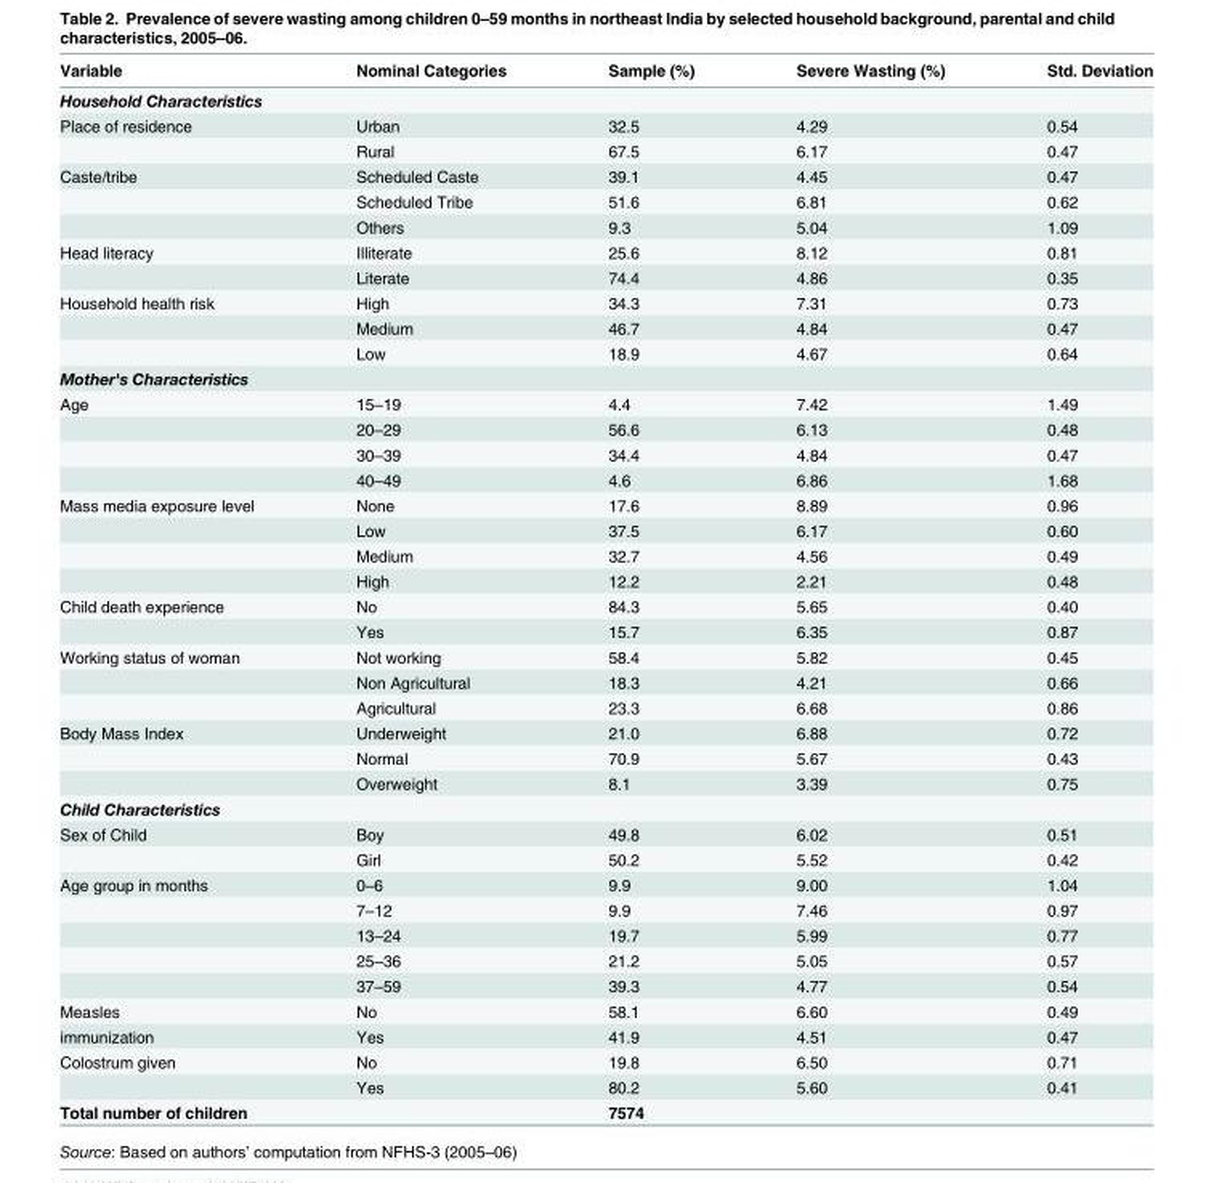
<table><thead><tr><td>Variable</td><td>Nominal Categories</td><td>Sample (%)</td><td>Severe Wasting (%)</td><td>Std. Deviation</td></tr></thead><tbody><tr><td colspan="5">Household Characteristics</td></tr><tr><td rowspan="2">Place of residence</td><td>Urban</td><td>32.5</td><td>4.29</td><td>0.54</td></tr><tr><td>Rural</td><td>67.5</td><td>6.17</td><td>0.47</td></tr><tr><td rowspan="3">Caste/tribe</td><td>Scheduled Caste</td><td>39.1</td><td>4.45</td><td>0.47</td></tr><tr><td>Scheduled Tribe</td><td>51.6</td><td>6.81</td><td>0.62</td></tr><tr><td>Others</td><td>9.3</td><td>5.04</td><td>1.09</td></tr><tr><td rowspan="2">Head literacy</td><td>Illiterate</td><td>25.6</td><td>8.12</td><td>0.81</td></tr><tr><td>Literate</td><td>74.4</td><td>4.86</td><td>0.35</td></tr><tr><td rowspan="3">Household health risk</td><td>High</td><td>34.3</td><td>7.31</td><td>0.73</td></tr><tr><td>Medium</td><td>46.7</td><td>4.84</td><td>0.47</td></tr><tr><td>Low</td><td>18.9</td><td>4.67</td><td>0.64</td></tr><tr><td colspan="5">Mother&#x27;s Characteristics</td></tr><tr><td rowspan="4">Age</td><td>15–19</td><td>4.4</td><td>7.42</td><td>1.49</td></tr><tr><td>20–29</td><td>56.6</td><td>6.13</td><td>0.48</td></tr><tr><td>30–39</td><td>34.4</td><td>4.84</td><td>0.47</td></tr><tr><td>40–49</td><td>4.6</td><td>6.86</td><td>1.68</td></tr><tr><td rowspan="4">Mass media exposure level</td><td>None</td><td>17.6</td><td>8.89</td><td>0.96</td></tr><tr><td>Low</td><td>37.5</td><td>6.17</td><td>0.60</td></tr><tr><td>Medium</td><td>32.7</td><td>4.56</td><td>0.49</td></tr><tr><td>High</td><td>12.2</td><td>2.21</td><td>0.48</td></tr><tr><td rowspan="2">Child death experience</td><td>No</td><td>84.3</td><td>5.65</td><td>0.40</td></tr><tr><td>Yes</td><td>15.7</td><td>6.35</td><td>0.87</td></tr><tr><td rowspan="3">Working status of woman</td><td>Not working</td><td>58.4</td><td>5.82</td><td>0.45</td></tr><tr><td>Non Agricultural</td><td>18.3</td><td>4.21</td><td>0.66</td></tr><tr><td>Agricultural</td><td>23.3</td><td>6.68</td><td>0.86</td></tr><tr><td rowspan="3">Body Mass Index</td><td>Underweight</td><td>21.0</td><td>6.88</td><td>0.72</td></tr><tr><td>Normal</td><td>70.9</td><td>5.67</td><td>0.43</td></tr><tr><td>Overweight</td><td>8.1</td><td>3.39</td><td>0.75</td></tr><tr><td colspan="5">Child Characteristics</td></tr><tr><td rowspan="2">Sex of Child</td><td>Boy</td><td>49.8</td><td>6.02</td><td>0.51</td></tr><tr><td>Girl</td><td>50.2</td><td>5.52</td><td>0.42</td></tr><tr><td rowspan="5">Age group in months</td><td>0–6</td><td>9.9</td><td>9.00</td><td>1.04</td></tr><tr><td>7–12</td><td>9.9</td><td>7.46</td><td>0.97</td></tr><tr><td>13–24</td><td>19.7</td><td>5.99</td><td>0.77</td></tr><tr><td>25–36</td><td>21.2</td><td>5.05</td><td>0.57</td></tr><tr><td>37–59</td><td>39.3</td><td>4.77</td><td>0.54</td></tr><tr><td>Measles</td><td>No</td><td>58.1</td><td>6.60</td><td>0.49</td></tr><tr><td>immunization</td><td>Yes</td><td>41.9</td><td>4.51</td><td>0.47</td></tr><tr><td rowspan="2">Colostrum given</td><td>No</td><td>19.8</td><td>6.50</td><td>0.71</td></tr><tr><td>Yes</td><td>80.2</td><td>5.60</td><td>0.41</td></tr><tr><td>Total number of children</td><td></td><td>7574</td><td></td><td></td></tr></tbody></table>